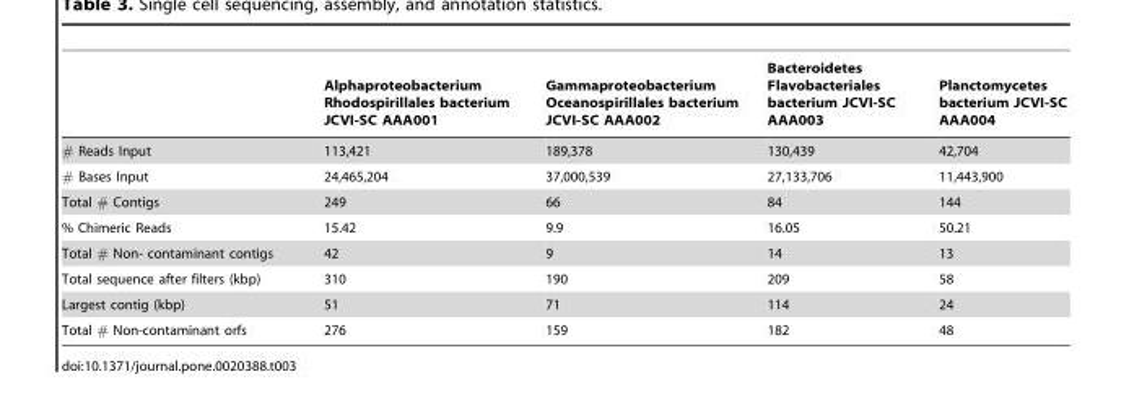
<table><thead><tr><td></td><td>Alphaproteobacterium Rhodospirillales bacterium JCVI-SC AAA001</td><td>Gammaproteobacterium Oceanospirillales bacterium JCVI-SC AAA002</td><td>Bacteroidetes Flavobacteriales bacterium JCVI-SC AAA003</td><td>Planctomycetes bacterium JCVI-SC AAA004</td></tr></thead><tbody><tr><td># Reads Input</td><td>113,421</td><td>189,378</td><td>130,439</td><td>42,704</td></tr><tr><td># Bases Input</td><td>24,465,204</td><td>37,000,539</td><td>27,133,706</td><td>11,443,900</td></tr><tr><td>Total # Contigs</td><td>249</td><td>66</td><td>84</td><td>144</td></tr><tr><td>% Chimeric Reads</td><td>15.42</td><td>9.9</td><td>16.05</td><td>50.21</td></tr><tr><td>Total # Non- contaminant contigs</td><td>42</td><td>9</td><td>14</td><td>13</td></tr><tr><td>Total sequence after filters (kbp)</td><td>310</td><td>190</td><td>209</td><td>58</td></tr><tr><td>Largest contig (kbp)</td><td>51</td><td>71</td><td>114</td><td>24</td></tr><tr><td>Total # Non-contaminant orfs</td><td>276</td><td>159</td><td>182</td><td>48</td></tr></tbody></table>